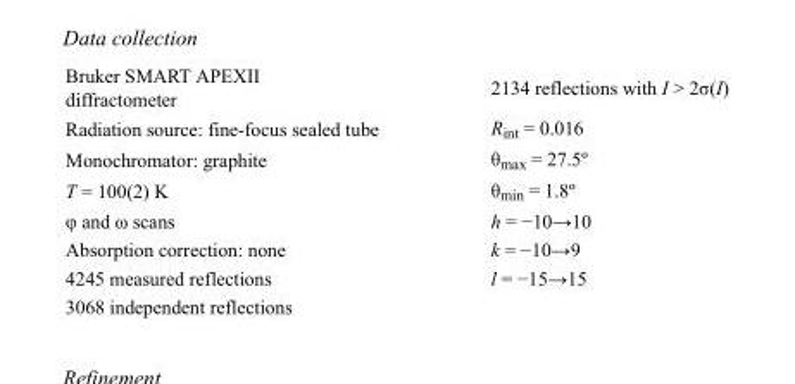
<table><tbody><tr><td>Bruker SMART APEXII diffractometer</td><td>2134 reflections with I &gt; 2σ(I)</td></tr><tr><td>Radiation source: fine-focus sealed tube</td><td>R<sub>int</sub> = 0.016</td></tr><tr><td>Monochromator: graphite</td><td>θ<sub>max</sub> = 27.5º</td></tr><tr><td>T = 100(2) K</td><td>θ<sub>min</sub> = 1.8º</td></tr><tr><td>φ and ω scans</td><td>h = −10→10</td></tr><tr><td>Absorption correction: none</td><td>k = −10→9</td></tr><tr><td>4245 measured reflections</td><td>l = −15→15</td></tr><tr><td>3068 independent reflections</td><td></td></tr></tbody></table>